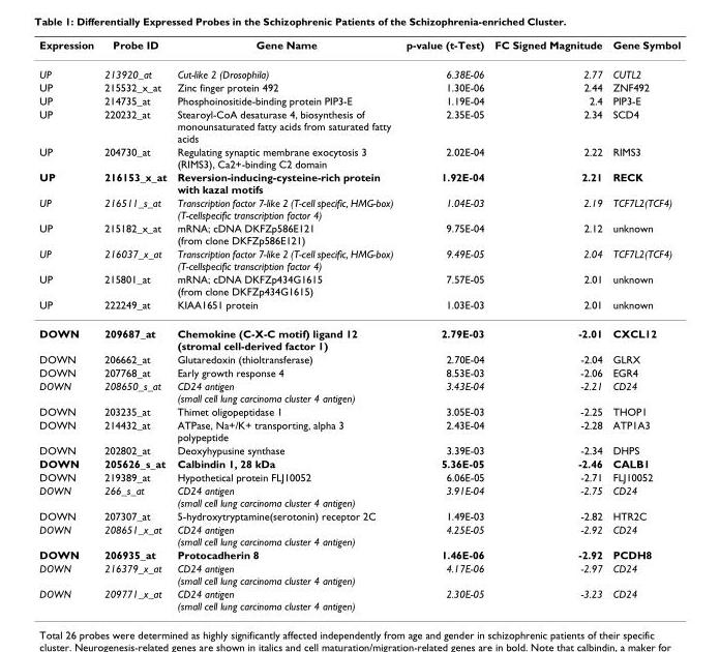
<table><thead><tr><td>Expression</td><td>Probe ID</td><td>Gene Name</td><td>p-value (t-Test)</td><td>FC Signed Magnitude</td><td>Gene Symbol</td></tr></thead><tbody><tr><td>UP</td><td>213920_at</td><td>Cut-like 2 (Drosophila)</td><td>6.38E-06</td><td>2.77</td><td>CUTL2</td></tr><tr><td>UP</td><td>215532_x_at</td><td>Zinc finger protein 492</td><td>1.30E-06</td><td>2.44</td><td>ZNF492</td></tr><tr><td>UP</td><td>214735_at</td><td>Phosphoinositide-binding protein PIP3-E</td><td>1.19E-04</td><td>2.4</td><td>PIP3-E</td></tr><tr><td>UP</td><td>220232_at</td><td>Stearoyl-CoA desaturase 4, biosynthesis of monounsaturated fatty acids from saturated fatty acids</td><td>2.35E-05</td><td>2.34</td><td>SCD4</td></tr><tr><td>UP</td><td>204730_at</td><td>Regulating synaptic membrane exocytosis 3 (RIMS3), Ca2+-binding C2 domain</td><td>2.02E-04</td><td>2.22</td><td>RIMS3</td></tr><tr><td>UP</td><td>216153_x_at</td><td>Reversion-inducing-cysteine-rich protein with kazal motifs</td><td>1.92E-04</td><td>2.21</td><td>RECK</td></tr><tr><td>UP</td><td>216511_s_at</td><td>Transcription factor 7-like 2 (T-cell specific, HMG-box) (T-cellspecific transcription factor 4)</td><td>1.04E-03</td><td>2.19</td><td>TCF7L2(TCF4)</td></tr><tr><td>UP</td><td>215182_x_at</td><td>mRNA; cDNA DKFZp586E121 (from clone DKFZp586E121)</td><td>9.75E-04</td><td>2.12</td><td>unknown</td></tr><tr><td>UP</td><td>216037_x_at</td><td>Transcription factor 7-like 2 (T-cell specific, HMG-box) (T-cellspecific transcription factor 4)</td><td>9.49E-05</td><td>2.04</td><td>TCF7L2(TCF4)</td></tr><tr><td>UP</td><td>215801_at</td><td>mRNA; cDNA DKFZp434G1615 (from clone DKFZp434G1615)</td><td>7.57E-05</td><td>2.01</td><td>unknown</td></tr><tr><td>UP</td><td>222249_at</td><td>KIAA1651 protein</td><td>1.03E-03</td><td>2.01</td><td>unknown</td></tr><tr><td>DOWN</td><td>209687_at</td><td>Chemokine (C-X-C motif) ligand 12 (stromal cell-derived factor 1)</td><td>2.79E-03</td><td>-2.01</td><td>CXCL12</td></tr><tr><td>DOWN</td><td>206662_at</td><td>Glutaredoxin (thioltransferase)</td><td>2.70E-04</td><td>-2.04</td><td>GLRX</td></tr><tr><td>DOWN</td><td>207768_at</td><td>Early growth response 4</td><td>8.53E-03</td><td>-2.06</td><td>EGR4</td></tr><tr><td>DOWN</td><td>208650_s_at</td><td>CD24 antigen (small cell lung carcinoma cluster 4 antigen)</td><td>3.43E-04</td><td>-2.21</td><td>CD24</td></tr><tr><td>DOWN</td><td>203235_at</td><td>Thimet oligopeptidase 1</td><td>3.05E-03</td><td>-2.25</td><td>THOP1</td></tr><tr><td>DOWN</td><td>214432_at</td><td>ATPase, Na+/K+ transporting, alpha 3 polypeptide</td><td>2.43E-04</td><td>-2.28</td><td>ATP1A3</td></tr><tr><td>DOWN</td><td>202802_at</td><td>Deoxyhypusine synthase</td><td>3.39E-03</td><td>-2.34</td><td>DHPS</td></tr><tr><td>DOWN</td><td>205626_s_at</td><td>Calbindin 1, 28 kDa</td><td>5.36E-05</td><td>-2.46</td><td>CALB1</td></tr><tr><td>DOWN</td><td>219389_at</td><td>Hypothetical protein FLJ10052</td><td>6.06E-05</td><td>-2.71</td><td>FLJ10052</td></tr><tr><td>DOWN</td><td>266_s_at</td><td>CD24 antigen (small cell lung carcinoma cluster 4 antigen)</td><td>3.91E-04</td><td>-2.75</td><td>CD24</td></tr><tr><td>DOWN</td><td>207307_at</td><td>5-hydroxytryptamine(serotonin) receptor 2C</td><td>1.49E-03</td><td>-2.82</td><td>HTR2C</td></tr><tr><td>DOWN</td><td>208651_x_at</td><td>CD24 antigen (small cell lung carcinoma cluster 4 antigen)</td><td>4.25E-05</td><td>-2.92</td><td>CD24</td></tr><tr><td>DOWN</td><td>206935_at</td><td>Protocadherin 8</td><td>1.46E-06</td><td>-2.92</td><td>PCDH8</td></tr><tr><td>DOWN</td><td>216379_x_at</td><td>CD24 antigen (small cell lung carcinoma cluster 4 antigen)</td><td>4.17E-06</td><td>-2.97</td><td>CD24</td></tr><tr><td>DOWN</td><td>209771_x_at</td><td>CD24 antigen (small cell lung carcinoma cluster 4 antigen)</td><td>2.30E-05</td><td>-3.23</td><td>CD24</td></tr></tbody></table>